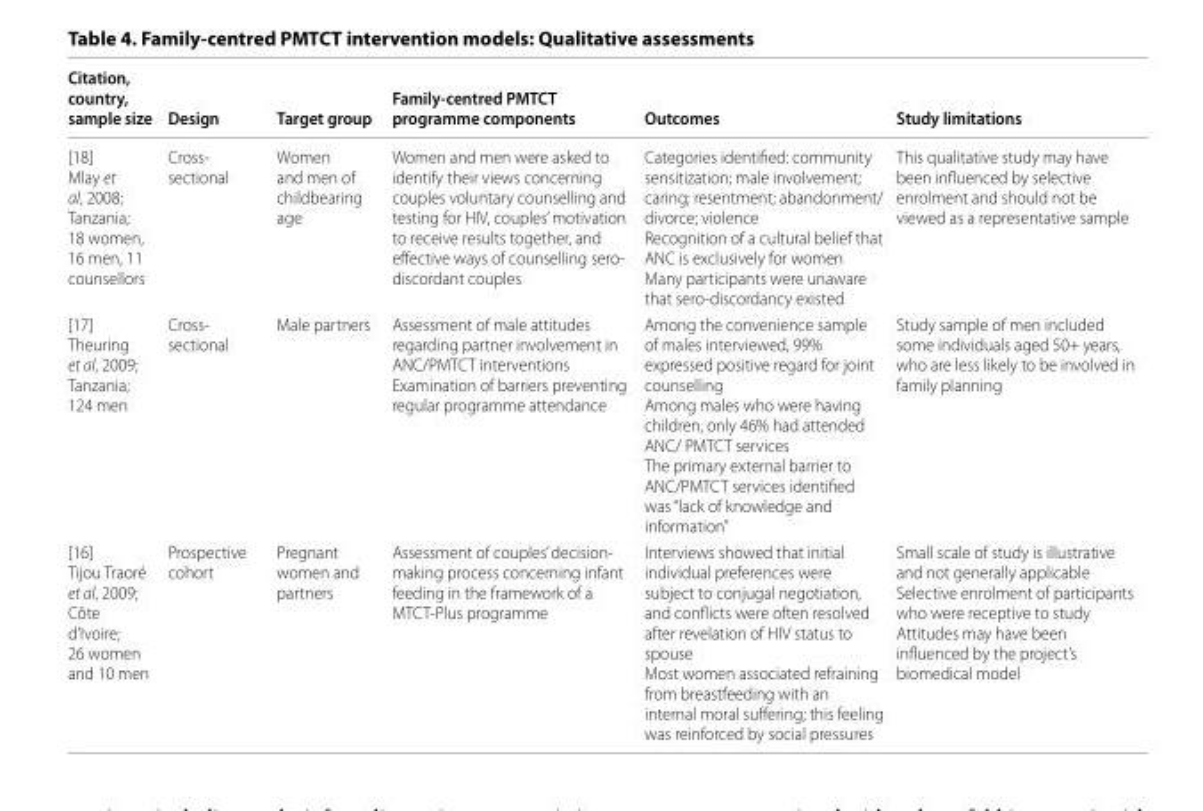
<table><thead><tr><td>Citation, country, sample size</td><td>Design</td><td>Target group</td><td>Family-centred PMTCT programme components</td><td>Outcomes</td><td>Study limitations</td></tr></thead><tbody><tr><td>[18] Mlay et al, 2008; Tanzania; 18 women, 16 men, 11 counsellors</td><td>Cross- sectional</td><td>Women and men of childbearing age</td><td>Women and men were asked to identify their views concerning couples voluntary counselling and testing for HIV, couples’ motivation to receive results together, and eff ective ways of counselling sero- discordant couples</td><td>Categories identifi ed: community sensitization; male involvement; caring; resentment; abandonment/ divorce; violence Recognition of a cultural belief that ANC is exclusively for women Many participants were unaware that sero-discordancy existed</td><td>This qualitative study may have been infl uenced by selective enrolment and should not be viewed as a representative sample</td></tr><tr><td>[17] Theuring et al, 2009; Tanzania; 124 men</td><td>Cross- sectional</td><td>Male partners</td><td>Assessment of male attitudes regarding partner involvement in ANC/PMTCT interventions Examination of barriers preventing regular programme attendance</td><td>Among the convenience sample of males interviewed, 99% expressed positive regard for joint counselling Among males who were having children, only 46% had attended ANC/ PMTCT services The primary external barrier to ANC/PMTCT services identifi ed was “lack of knowledge and information”</td><td>Study sample of men included some individuals aged 50+ years, who are less likely to be involved in family planning</td></tr><tr><td>[16] Tijou Traoré et al, 2009; Côte d’Ivoire; 26 women and 10 men</td><td>Prospective cohort</td><td>Pregnant women and partners</td><td>Assessment of couples’ decision- making process concerning infant feeding in the framework of a MTCT-Plus programme</td><td>Interviews showed that initial individual preferences were subject to conjugal negotiation, and confl icts were often resolved after revelation of HIV status to spouse Most women associated refraining from breastfeeding with an internal moral suff ering; this feeling was reinforced by social pressures</td><td>Small scale of study is illustrative and not generally applicable Selective enrolment of participants who were receptive to study Attitudes may have been infl uenced by the project’s biomedical model</td></tr></tbody></table>